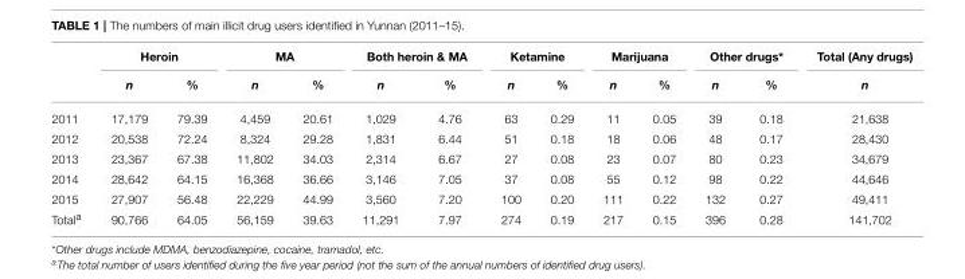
<table><thead><tr><td rowspan="2"></td><td colspan="2">Heroin</td><td colspan="2">MA</td><td colspan="2">Both heroin &amp; MA</td><td colspan="2">Ketamine</td><td colspan="2">Marijuana</td><td colspan="2">Other drugs*</td><td rowspan="2">Total (Any drugs) n</td></tr><tr><td>n</td><td>%</td><td>n</td><td>%</td><td>n</td><td>%</td><td>n</td><td>%</td><td>n</td><td>%</td><td>n</td><td>%</td></tr></thead><tbody><tr><td>2011</td><td>17,179</td><td>79.39</td><td>4,459</td><td>20.61</td><td>1,029</td><td>4.76</td><td>63</td><td>0.29</td><td>11</td><td>0.05</td><td>39</td><td>0.18</td><td>21,638</td></tr><tr><td>2012</td><td>20,538</td><td>72.24</td><td>8,324</td><td>29.28</td><td>1,831</td><td>6.44</td><td>51</td><td>0.18</td><td>18</td><td>0.06</td><td>48</td><td>0.17</td><td>28,430</td></tr><tr><td>2013</td><td>23,367</td><td>67.38</td><td>11,802</td><td>34.03</td><td>2,314</td><td>6.67</td><td>27</td><td>0.08</td><td>23</td><td>0.07</td><td>80</td><td>0.23</td><td>34,679</td></tr><tr><td>2014</td><td>28,642</td><td>64.15</td><td>16,368</td><td>36.66</td><td>3,146</td><td>7.05</td><td>37</td><td>0.08</td><td>55</td><td>0.12</td><td>98</td><td>0.22</td><td>44,646</td></tr><tr><td>2015</td><td>27,907</td><td>56.48</td><td>22,229</td><td>44.99</td><td>3,560</td><td>7.20</td><td>100</td><td>0.20</td><td>111</td><td>0.22</td><td>132</td><td>0.27</td><td>49,411</td></tr><tr><td>Total<sup>a</sup></td><td>90,766</td><td>64.05</td><td>56,159</td><td>39.63</td><td>11,291</td><td>7.97</td><td>274</td><td>0.19</td><td>217</td><td>0.15</td><td>396</td><td>0.28</td><td>141,702</td></tr></tbody></table>